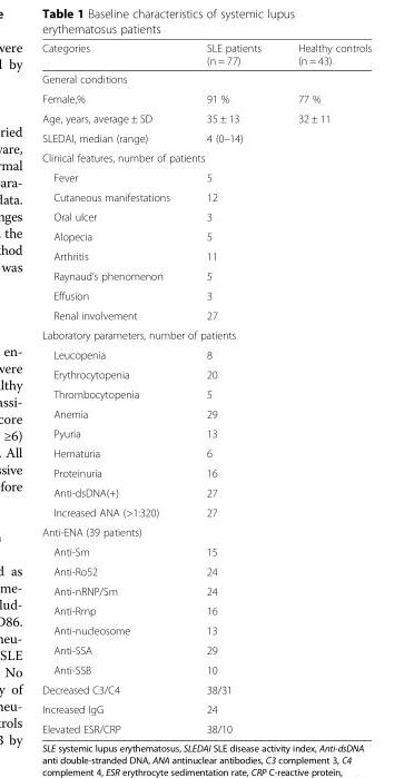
<table><thead><tr><td>Categories</td><td>SLE patients (n = 77)</td><td>Healthy controls (n = 43)</td></tr></thead><tbody><tr><td colspan="3">General conditions</td></tr><tr><td>Female,%</td><td>91 %</td><td>77 %</td></tr><tr><td>Age, years, average ± SD</td><td>35 ± 13</td><td>32 ± 11</td></tr><tr><td>SLEDAI, median (range)</td><td>4 (0–14)</td><td></td></tr><tr><td colspan="3">Clinical features, number of patients</td></tr><tr><td>Fever</td><td>5</td><td></td></tr><tr><td>Cutaneous manifestations</td><td>12</td><td></td></tr><tr><td>Oral ulcer</td><td>3</td><td></td></tr><tr><td>Alopecia</td><td>5</td><td></td></tr><tr><td>Arthritis</td><td>11</td><td></td></tr><tr><td>Raynaud’s phenomenon</td><td>5</td><td></td></tr><tr><td>Effusion</td><td>3</td><td></td></tr><tr><td>Renal involvement</td><td>27</td><td></td></tr><tr><td colspan="3">Laboratory parameters, number of patients</td></tr><tr><td>Leucopenia</td><td>8</td><td></td></tr><tr><td>Erythrocytopenia</td><td>20</td><td></td></tr><tr><td>Thrombocytopenia</td><td>5</td><td></td></tr><tr><td>Anemia</td><td>29</td><td></td></tr><tr><td>Pyuria</td><td>13</td><td></td></tr><tr><td>Hematuria</td><td>6</td><td></td></tr><tr><td>Proteinuria</td><td>16</td><td></td></tr><tr><td>Anti-dsDNA(+)</td><td>27</td><td></td></tr><tr><td>Increased ANA (&gt;1:320)</td><td>27</td><td></td></tr><tr><td colspan="3">Anti-ENA (39 patients)</td></tr><tr><td>Anti-Sm</td><td>15</td><td></td></tr><tr><td>Anti-Ro52</td><td>24</td><td></td></tr><tr><td>Anti-nRNP/Sm</td><td>24</td><td></td></tr><tr><td>Anti-Rrnp</td><td>16</td><td></td></tr><tr><td>Anti-nucleosome</td><td>13</td><td></td></tr><tr><td>Anti-SSA</td><td>29</td><td></td></tr><tr><td>Anti-SSB</td><td>10</td><td></td></tr><tr><td>Decreased C3/C4</td><td>38/31</td><td></td></tr><tr><td>Increased IgG</td><td>24</td><td></td></tr><tr><td>Elevated ESR/CRP</td><td>38/10</td><td></td></tr></tbody></table>